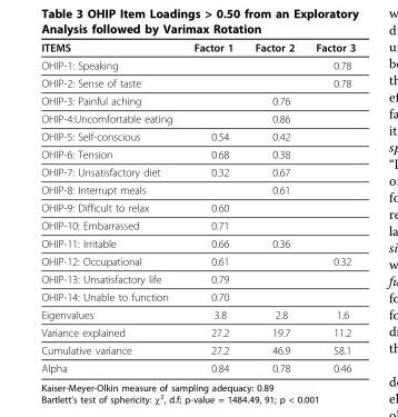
<table><thead><tr><td>ITEMS</td><td>Factor 1</td><td>Factor 2</td><td>Factor 3</td></tr></thead><tbody><tr><td>OHIP-1: Speaking</td><td></td><td></td><td>0.78</td></tr><tr><td>OHIP-2: Sense of taste</td><td></td><td></td><td>0.78</td></tr><tr><td>OHIP-3: Painful aching</td><td></td><td>0.76</td><td></td></tr><tr><td>OHIP-4:Uncomfortable eating</td><td></td><td>0.86</td><td></td></tr><tr><td>OHIP-5: Self-conscious</td><td>0.54</td><td>0.42</td><td></td></tr><tr><td>OHIP-6: Tension</td><td>0.68</td><td>0.38</td><td></td></tr><tr><td>OHIP-7: Unsatisfactory diet</td><td>0.32</td><td>0.67</td><td></td></tr><tr><td>OHIP-8: Interrupt meals</td><td></td><td>0.61</td><td></td></tr><tr><td>OHIP-9: Difficult to relax</td><td>0.60</td><td></td><td></td></tr><tr><td>OHIP-10: Embarrassed</td><td>0.71</td><td></td><td></td></tr><tr><td>OHIP-11: Irritable</td><td>0.66</td><td>0.36</td><td></td></tr><tr><td>OHIP-12: Occupational</td><td>0.61</td><td></td><td>0.32</td></tr><tr><td>OHIP-13: Unsatisfactory life</td><td>0.79</td><td></td><td></td></tr><tr><td>OHIP-14: Unable to function</td><td>0.70</td><td></td><td></td></tr><tr><td>Eigenvalues</td><td>3.8</td><td>2.8</td><td>1.6</td></tr><tr><td>Variance explained</td><td>27.2</td><td>19.7</td><td>11.2</td></tr><tr><td>Cumulative variance</td><td>27.2</td><td>46.9</td><td>58.1</td></tr><tr><td>Alpha</td><td>0.84</td><td>0.78</td><td>0.46</td></tr></tbody></table>